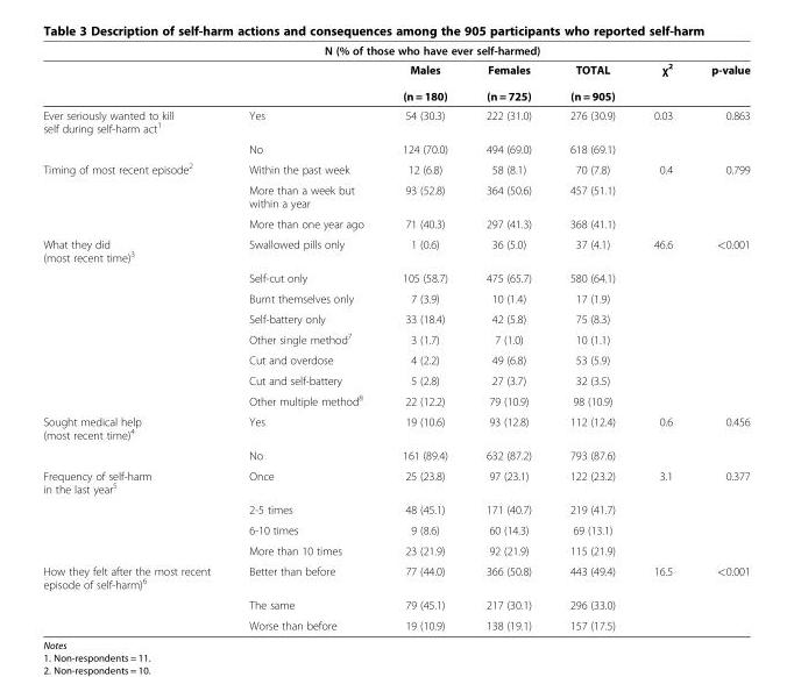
<table><thead><tr><td rowspan="2"></td><td colspan="4">N (% of those who have ever self-harmed)</td><td rowspan="2">χ<sup>2</sup></td><td rowspan="2">p-value</td></tr><tr><td></td><td>Males (n = 180)</td><td>Females (n = 725)</td><td>TOTAL (n = 905)</td></tr></thead><tbody><tr><td rowspan="2">Ever seriously wanted to kill self during self-harm act<sup>1</sup></td><td>Yes</td><td>54 (30.3)</td><td>222 (31.0)</td><td>276 (30.9)</td><td>0.03</td><td>0.863</td></tr><tr><td>No</td><td>124 (70.0)</td><td>494 (69.0)</td><td>618 (69.1)</td><td></td><td></td></tr><tr><td rowspan="3">Timing of most recent episode<sup>2</sup></td><td>Within the past week</td><td>12 (6.8)</td><td>58 (8.1)</td><td>70 (7.8)</td><td>0.4</td><td>0.799</td></tr><tr><td>More than a week but within a year</td><td>93 (52.8)</td><td>364 (50.6)</td><td>457 (51.1)</td><td></td><td></td></tr><tr><td>More than one year ago</td><td>71 (40.3)</td><td>297 (41.3)</td><td>368 (41.1)</td><td></td><td></td></tr><tr><td rowspan="8">What they did (most recent time)<sup>3</sup></td><td>Swallowed pills only</td><td>1 (0.6)</td><td>36 (5.0)</td><td>37 (4.1)</td><td>46.6</td><td>&lt;0.001</td></tr><tr><td>Self-cut only</td><td>105 (58.7)</td><td>475 (65.7)</td><td>580 (64.1)</td><td></td><td></td></tr><tr><td>Burnt themselves only</td><td>7 (3.9)</td><td>10 (1.4)</td><td>17 (1.9)</td><td></td><td></td></tr><tr><td>Self-battery only</td><td>33 (18.4)</td><td>42 (5.8)</td><td>75 (8.3)</td><td></td><td></td></tr><tr><td>Other single method<sup>7</sup></td><td>3 (1.7)</td><td>7 (1.0)</td><td>10 (1.1)</td><td></td><td></td></tr><tr><td>Cut and overdose</td><td>4 (2.2)</td><td>49 (6.8)</td><td>53 (5.9)</td><td></td><td></td></tr><tr><td>Cut and self-battery</td><td>5 (2.8)</td><td>27 (3.7)</td><td>32 (3.5)</td><td></td><td></td></tr><tr><td>Other multiple method<sup>8</sup></td><td>22 (12.2)</td><td>79 (10.9)</td><td>98 (10.9)</td><td></td><td></td></tr><tr><td rowspan="2">Sought medical help (most recent time)<sup>4</sup></td><td>Yes</td><td>19 (10.6)</td><td>93 (12.8)</td><td>112 (12.4)</td><td>0.6</td><td>0.456</td></tr><tr><td>No</td><td>161 (89.4)</td><td>632 (87.2)</td><td>793 (87.6)</td><td></td><td></td></tr><tr><td rowspan="4">Frequency of self-harm in the last year<sup>5</sup></td><td>Once</td><td>25 (23.8)</td><td>97 (23.1)</td><td>122 (23.2)</td><td>3.1</td><td>0.377</td></tr><tr><td>2-5 times</td><td>48 (45.1)</td><td>171 (40.7)</td><td>219 (41.7)</td><td></td><td></td></tr><tr><td>6-10 times</td><td>9 (8.6)</td><td>60 (14.3)</td><td>69 (13.1)</td><td></td><td></td></tr><tr><td>More than 10 times</td><td>23 (21.9)</td><td>92 (21.9)</td><td>115 (21.9)</td><td></td><td></td></tr><tr><td rowspan="3">How they felt after the most recent episode of self-harm)<sup>6</sup></td><td>Better than before</td><td>77 (44.0)</td><td>366 (50.8)</td><td>443 (49.4)</td><td>16.5</td><td>&lt;0.001</td></tr><tr><td>The same</td><td>79 (45.1)</td><td>217 (30.1)</td><td>296 (33.0)</td><td></td><td></td></tr><tr><td>Worse than before</td><td>19 (10.9)</td><td>138 (19.1)</td><td>157 (17.5)</td><td></td><td></td></tr></tbody></table>